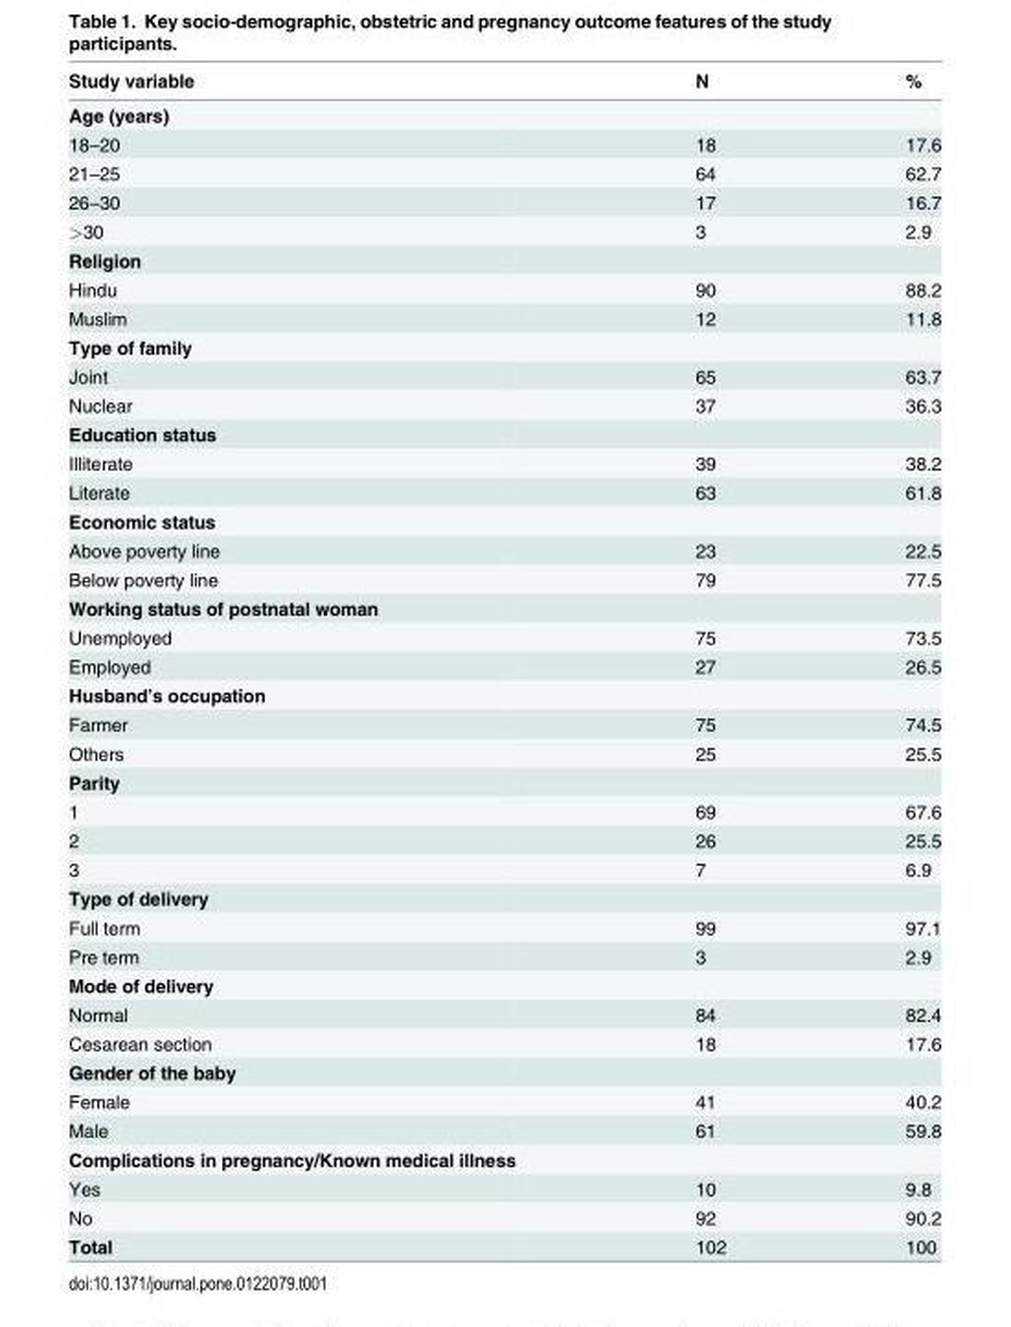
<table><thead><tr><td>Study variable</td><td>N</td><td>%</td></tr></thead><tbody><tr><td colspan="3">Age (years)</td></tr><tr><td>18–20</td><td>18</td><td>17.6</td></tr><tr><td>21–25</td><td>64</td><td>62.7</td></tr><tr><td>26–30</td><td>17</td><td>16.7</td></tr><tr><td>&gt;30</td><td>3</td><td>2.9</td></tr><tr><td colspan="3">Religion</td></tr><tr><td>Hindu</td><td>90</td><td>88.2</td></tr><tr><td>Muslim</td><td>12</td><td>11.8</td></tr><tr><td colspan="3">Type of family</td></tr><tr><td>Joint</td><td>65</td><td>63.7</td></tr><tr><td>Nuclear</td><td>37</td><td>36.3</td></tr><tr><td colspan="3">Education status</td></tr><tr><td>Illiterate</td><td>39</td><td>38.2</td></tr><tr><td>Literate</td><td>63</td><td>61.8</td></tr><tr><td colspan="3">Economic status</td></tr><tr><td>Above poverty line</td><td>23</td><td>22.5</td></tr><tr><td>Below poverty line</td><td>79</td><td>77.5</td></tr><tr><td colspan="3">Working status of postnatal woman</td></tr><tr><td>Unemployed</td><td>75</td><td>73.5</td></tr><tr><td>Employed</td><td>27</td><td>26.5</td></tr><tr><td colspan="3">Husband’s occupation</td></tr><tr><td>Farmer</td><td>75</td><td>74.5</td></tr><tr><td>Others</td><td>25</td><td>25.5</td></tr><tr><td colspan="3">Parity</td></tr><tr><td>1</td><td>69</td><td>67.6</td></tr><tr><td>2</td><td>26</td><td>25.5</td></tr><tr><td>3</td><td>7</td><td>6.9</td></tr><tr><td colspan="3">Type of delivery</td></tr><tr><td>Full term</td><td>99</td><td>97.1</td></tr><tr><td>Pre term</td><td>3</td><td>2.9</td></tr><tr><td colspan="3">Mode of delivery</td></tr><tr><td>Normal</td><td>84</td><td>82.4</td></tr><tr><td>Cesarean section</td><td>18</td><td>17.6</td></tr><tr><td colspan="3">Gender of the baby</td></tr><tr><td>Female</td><td>41</td><td>40.2</td></tr><tr><td>Male</td><td>61</td><td>59.8</td></tr><tr><td colspan="3">Complications in pregnancy/Known medical illness</td></tr><tr><td>Yes</td><td>10</td><td>9.8</td></tr><tr><td>No</td><td>92</td><td>90.2</td></tr><tr><td>Total</td><td>102</td><td>100</td></tr></tbody></table>